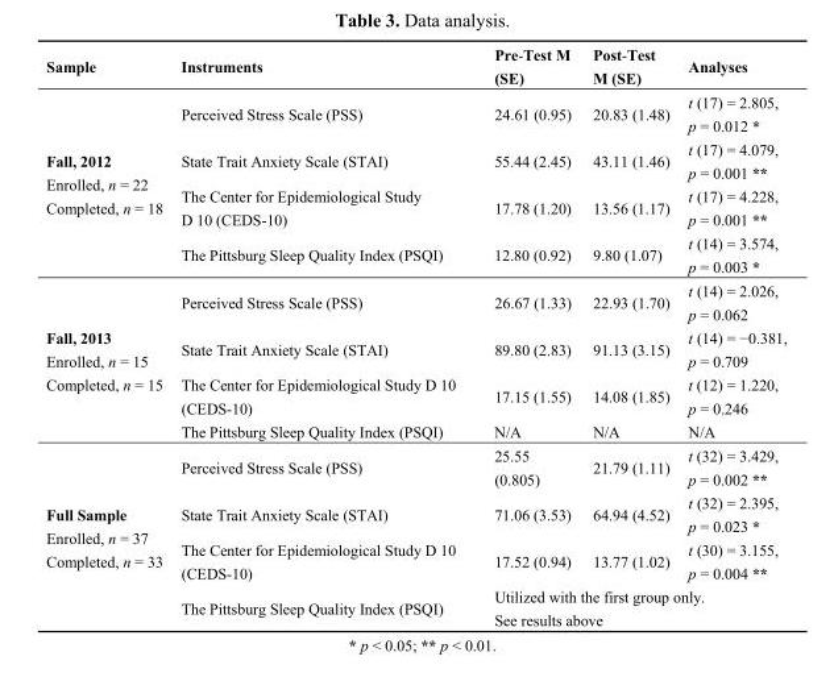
<table><thead><tr><td>Sample</td><td>Instruments</td><td>Pre-Test M (SE)</td><td>Post-Test M (SE)</td><td>Analyses</td></tr></thead><tbody><tr><td rowspan="4">Fall, 2012 Enrolled, n = 22 Completed, n = 18</td><td>Perceived Stress Scale (PSS)</td><td>24.61 (0.95)</td><td>20.83 (1.48)</td><td>t (17) = 2.805, p = 0.012 *</td></tr><tr><td>State Trait Anxiety Scale (STAI)</td><td>55.44 (2.45)</td><td>43.11 (1.46)</td><td>t (17) = 4.079, p = 0.001 **</td></tr><tr><td>The Center for Epidemiological Study D 10 (CEDS-10)</td><td>17.78 (1.20)</td><td>13.56 (1.17)</td><td>t (17) = 4.228, p = 0.001 **</td></tr><tr><td>The Pittsburg Sleep Quality Index (PSQI)</td><td>12.80 (0.92)</td><td>9.80 (1.07)</td><td>t (14) = 3.574, p = 0.003 *</td></tr><tr><td rowspan="4">Fall, 2013 Enrolled, n = 15 Completed, n = 15</td><td>Perceived Stress Scale (PSS)</td><td>26.67 (1.33)</td><td>22.93 (1.70)</td><td>t (14) = 2.026, p = 0.062</td></tr><tr><td>State Trait Anxiety Scale (STAI)</td><td>89.80 (2.83)</td><td>91.13 (3.15)</td><td>t (14) = −0.381, p = 0.709</td></tr><tr><td>The Center for Epidemiological Study D 10 (CEDS-10)</td><td>17.15 (1.55)</td><td>14.08 (1.85)</td><td>t (12) = 1.220, p = 0.246</td></tr><tr><td>The Pittsburg Sleep Quality Index (PSQI)</td><td>N/A</td><td>N/A</td><td>N/A</td></tr><tr><td rowspan="4">Full Sample Enrolled, n = 37 Completed, n = 33</td><td>Perceived Stress Scale (PSS)</td><td>25.55 (0.805)</td><td>21.79 (1.11)</td><td>t (32) = 3.429, p = 0.002 **</td></tr><tr><td>State Trait Anxiety Scale (STAI)</td><td>71.06 (3.53)</td><td>64.94 (4.52)</td><td>t (32) = 2.395, p = 0.023 *</td></tr><tr><td>The Center for Epidemiological Study D 10 (CEDS-10)</td><td>17.52 (0.94)</td><td>13.77 (1.02)</td><td>t (30) = 3.155, p = 0.004 **</td></tr><tr><td>The Pittsburg Sleep Quality Index (PSQI)</td><td colspan="3">Utilized with the first group only. See results above</td></tr></tbody></table>